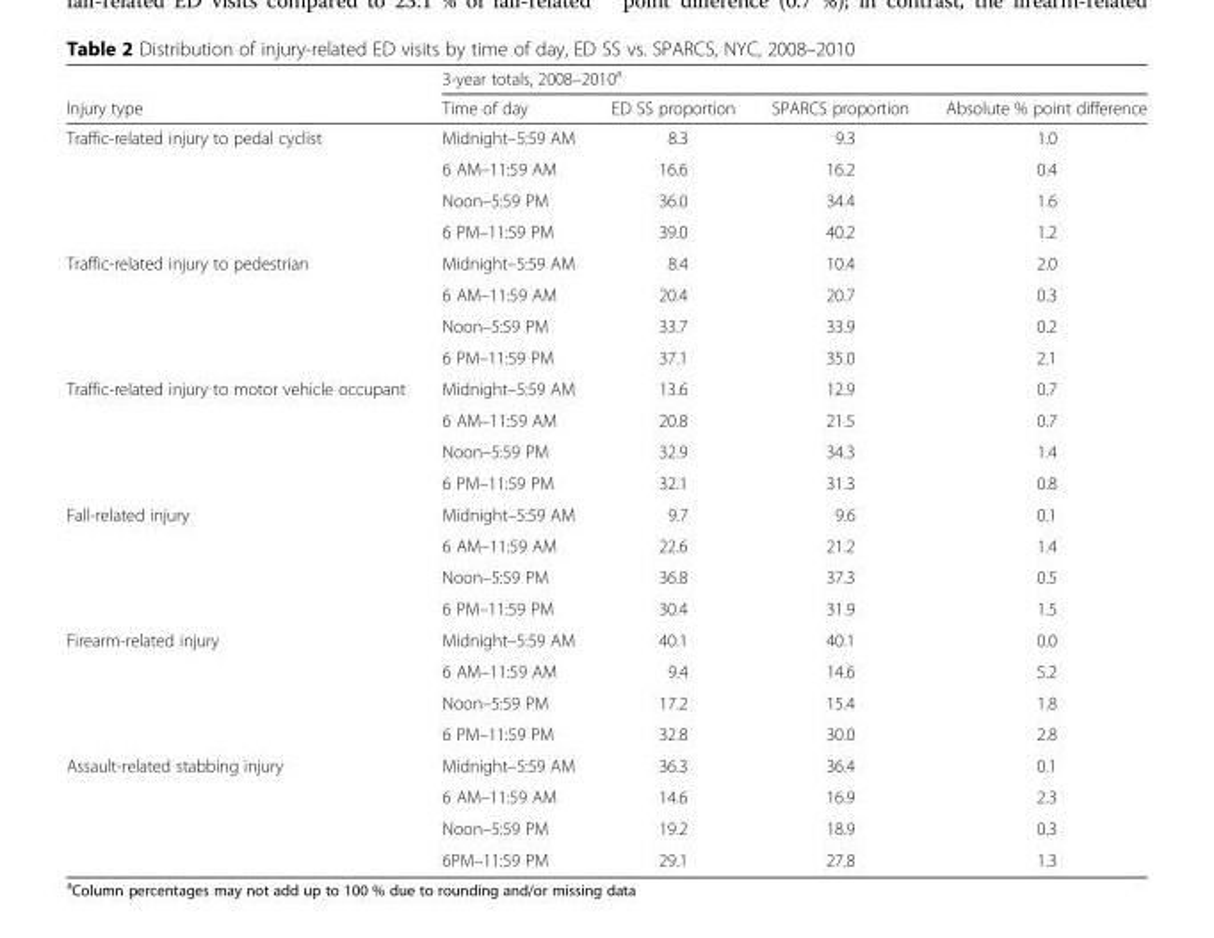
<table><thead><tr><td rowspan="2">Injury type</td><td colspan="4">3-year totals, 2008–2010<sup>a</sup></td></tr><tr><td>Time of day</td><td>ED SS proportion</td><td>SPARCS proportion</td><td>Absolute % point difference</td></tr></thead><tbody><tr><td rowspan="4">Traffic-related injury to pedal cyclist</td><td>Midnight–5:59 AM</td><td>8.3</td><td>9.3</td><td>1.0</td></tr><tr><td>6 AM–11:59 AM</td><td>16.6</td><td>16.2</td><td>0.4</td></tr><tr><td>Noon–5:59 PM</td><td>36.0</td><td>34.4</td><td>1.6</td></tr><tr><td>6 PM–11:59 PM</td><td>39.0</td><td>40.2</td><td>1.2</td></tr><tr><td rowspan="4">Traffic-related injury to pedestrian</td><td>Midnight–5:59 AM</td><td>8.4</td><td>10.4</td><td>2.0</td></tr><tr><td>6 AM–11:59 AM</td><td>20.4</td><td>20.7</td><td>0.3</td></tr><tr><td>Noon–5:59 PM</td><td>33.7</td><td>33.9</td><td>0.2</td></tr><tr><td>6 PM–11:59 PM</td><td>37.1</td><td>35.0</td><td>2.1</td></tr><tr><td rowspan="4">Traffic-related injury to motor vehicle occupant</td><td>Midnight–5:59 AM</td><td>13.6</td><td>12.9</td><td>0.7</td></tr><tr><td>6 AM–11:59 AM</td><td>20.8</td><td>21.5</td><td>0.7</td></tr><tr><td>Noon–5:59 PM</td><td>32.9</td><td>34.3</td><td>1.4</td></tr><tr><td>6 PM–11:59 PM</td><td>32.1</td><td>31.3</td><td>0.8</td></tr><tr><td rowspan="4">Fall-related injury</td><td>Midnight–5:59 AM</td><td>9.7</td><td>9.6</td><td>0.1</td></tr><tr><td>6 AM–11:59 AM</td><td>22.6</td><td>21.2</td><td>1.4</td></tr><tr><td>Noon–5:59 PM</td><td>36.8</td><td>37.3</td><td>0.5</td></tr><tr><td>6 PM–11:59 PM</td><td>30.4</td><td>31.9</td><td>1.5</td></tr><tr><td rowspan="4">Firearm-related injury</td><td>Midnight–5:59 AM</td><td>40.1</td><td>40.1</td><td>0.0</td></tr><tr><td>6 AM–11:59 AM</td><td>9.4</td><td>14.6</td><td>5.2</td></tr><tr><td>Noon–5:59 PM</td><td>17.2</td><td>15.4</td><td>1.8</td></tr><tr><td>6 PM–11:59 PM</td><td>32.8</td><td>30.0</td><td>2.8</td></tr><tr><td rowspan="4">Assault-related stabbing injury</td><td>Midnight–5:59 AM</td><td>36.3</td><td>36.4</td><td>0.1</td></tr><tr><td>6 AM–11:59 AM</td><td>14.6</td><td>16.9</td><td>2.3</td></tr><tr><td>Noon–5:59 PM</td><td>19.2</td><td>18.9</td><td>0.3</td></tr><tr><td>6PM–11:59 PM</td><td>29.1</td><td>27.8</td><td>1.3</td></tr></tbody></table>